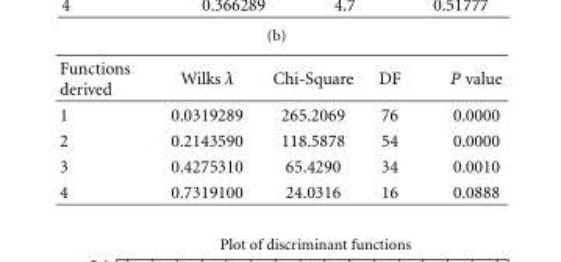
<table><thead><tr><td>Functions derived</td><td>Wilks λ</td><td>Chi-Square</td><td>DF</td><td>P value</td></tr></thead><tbody><tr><td>1</td><td>0.0319289</td><td>265.2069</td><td>76</td><td>0.0000</td></tr><tr><td>2</td><td>0.2143590</td><td>118.5878</td><td>54</td><td>0.0000</td></tr><tr><td>3</td><td>0.4275310</td><td>65.4290</td><td>34</td><td>0.0010</td></tr><tr><td>4</td><td>0.7319100</td><td>24.0316</td><td>16</td><td>0.0888</td></tr></tbody></table>